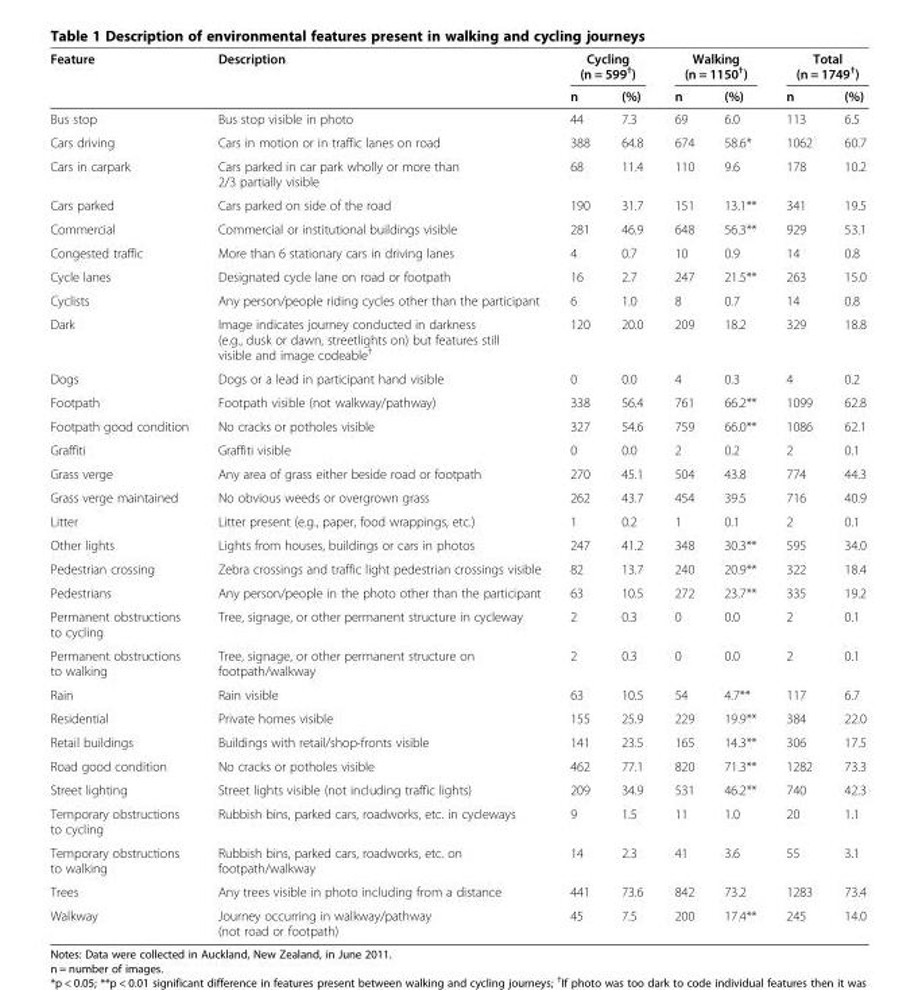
<table><thead><tr><td rowspan="2">Feature</td><td rowspan="2">Description</td><td colspan="2">Cycling (n = 599<sup>†</sup>)</td><td colspan="2">Walking (n = 1150<sup>†</sup>)</td><td colspan="2">Total (n = 1749<sup>†</sup>)</td></tr><tr><td>n</td><td>(%)</td><td>n</td><td>(%)</td><td>n</td><td>(%)</td></tr></thead><tbody><tr><td>Bus stop</td><td>Bus stop visible in photo</td><td>44</td><td>7.3</td><td>69</td><td>6.0</td><td>113</td><td>6.5</td></tr><tr><td>Cars driving</td><td>Cars in motion or in traffic lanes on road</td><td>388</td><td>64.8</td><td>674</td><td>58.6*</td><td>1062</td><td>60.7</td></tr><tr><td>Cars in carpark</td><td>Cars parked in car park wholly or more than 2/3 partially visible</td><td>68</td><td>11.4</td><td>110</td><td>9.6</td><td>178</td><td>10.2</td></tr><tr><td>Cars parked</td><td>Cars parked on side of the road</td><td>190</td><td>31.7</td><td>151</td><td>13.1**</td><td>341</td><td>19.5</td></tr><tr><td>Commercial</td><td>Commercial or institutional buildings visible</td><td>281</td><td>46.9</td><td>648</td><td>56.3**</td><td>929</td><td>53.1</td></tr><tr><td>Congested traffic</td><td>More than 6 stationary cars in driving lanes</td><td>4</td><td>0.7</td><td>10</td><td>0.9</td><td>14</td><td>0.8</td></tr><tr><td>Cycle lanes</td><td>Designated cycle lane on road or footpath</td><td>16</td><td>2.7</td><td>247</td><td>21.5**</td><td>263</td><td>15.0</td></tr><tr><td>Cyclists</td><td>Any person/people riding cycles other than the participant</td><td>6</td><td>1.0</td><td>8</td><td>0.7</td><td>14</td><td>0.8</td></tr><tr><td>Dark</td><td>Image indicates journey conducted in darkness (e.g., dusk or dawn, streetlights on) but features still visible and image codeable<sup>†</sup></td><td>120</td><td>20.0</td><td>209</td><td>18.2</td><td>329</td><td>18.8</td></tr><tr><td>Dogs</td><td>Dogs or a lead in participant hand visible</td><td>0</td><td>0.0</td><td>4</td><td>0.3</td><td>4</td><td>0.2</td></tr><tr><td>Footpath</td><td>Footpath visible (not walkway/pathway)</td><td>338</td><td>56.4</td><td>761</td><td>66.2**</td><td>1099</td><td>62.8</td></tr><tr><td>Footpath good condition</td><td>No cracks or potholes visible</td><td>327</td><td>54.6</td><td>759</td><td>66.0**</td><td>1086</td><td>62.1</td></tr><tr><td>Graffiti</td><td>Graffiti visible</td><td>0</td><td>0.0</td><td>2</td><td>0.2</td><td>2</td><td>0.1</td></tr><tr><td>Grass verge</td><td>Any area of grass either beside road or footpath</td><td>270</td><td>45.1</td><td>504</td><td>43.8</td><td>774</td><td>44.3</td></tr><tr><td>Grass verge maintained</td><td>No obvious weeds or overgrown grass</td><td>262</td><td>43.7</td><td>454</td><td>39.5</td><td>716</td><td>40.9</td></tr><tr><td>Litter</td><td>Litter present (e.g., paper, food wrappings, etc.)</td><td>1</td><td>0.2</td><td>1</td><td>0.1</td><td>2</td><td>0.1</td></tr><tr><td>Other lights</td><td>Lights from houses, buildings or cars in photos</td><td>247</td><td>41.2</td><td>348</td><td>30.3**</td><td>595</td><td>34.0</td></tr><tr><td>Pedestrian crossing</td><td>Zebra crossings and traffic light pedestrian crossings visible</td><td>82</td><td>13.7</td><td>240</td><td>20.9**</td><td>322</td><td>18.4</td></tr><tr><td>Pedestrians</td><td>Any person/people in the photo other than the participant</td><td>63</td><td>10.5</td><td>272</td><td>23.7**</td><td>335</td><td>19.2</td></tr><tr><td>Permanent obstructions to cycling</td><td>Tree, signage, or other permanent structure in cycleway</td><td>2</td><td>0.3</td><td>0</td><td>0.0</td><td>2</td><td>0.1</td></tr><tr><td>Permanent obstructions to walking</td><td>Tree, signage, or other permanent structure on footpath/walkway</td><td>2</td><td>0.3</td><td>0</td><td>0.0</td><td>2</td><td>0.1</td></tr><tr><td>Rain</td><td>Rain visible</td><td>63</td><td>10.5</td><td>54</td><td>4.7**</td><td>117</td><td>6.7</td></tr><tr><td>Residential</td><td>Private homes visible</td><td>155</td><td>25.9</td><td>229</td><td>19.9**</td><td>384</td><td>22.0</td></tr><tr><td>Retail buildings</td><td>Buildings with retail/shop-fronts visible</td><td>141</td><td>23.5</td><td>165</td><td>14.3**</td><td>306</td><td>17.5</td></tr><tr><td>Road good condition</td><td>No cracks or potholes visible</td><td>462</td><td>77.1</td><td>820</td><td>71.3**</td><td>1282</td><td>73.3</td></tr><tr><td>Street lighting</td><td>Street lights visible (not including traffic lights)</td><td>209</td><td>34.9</td><td>531</td><td>46.2**</td><td>740</td><td>42.3</td></tr><tr><td>Temporary obstructions to cycling</td><td>Rubbish bins, parked cars, roadworks, etc. in cycleways</td><td>9</td><td>1.5</td><td>11</td><td>1.0</td><td>20</td><td>1.1</td></tr><tr><td>Temporary obstructions to walking</td><td>Rubbish bins, parked cars, roadworks, etc. on footpath/walkway</td><td>14</td><td>2.3</td><td>41</td><td>3.6</td><td>55</td><td>3.1</td></tr><tr><td>Trees</td><td>Any trees visible in photo including from a distance</td><td>441</td><td>73.6</td><td>842</td><td>73.2</td><td>1283</td><td>73.4</td></tr><tr><td>Walkway</td><td>Journey occurring in walkway/pathway (not road or footpath)</td><td>45</td><td>7.5</td><td>200</td><td>17.4**</td><td>245</td><td>14.0</td></tr></tbody></table>